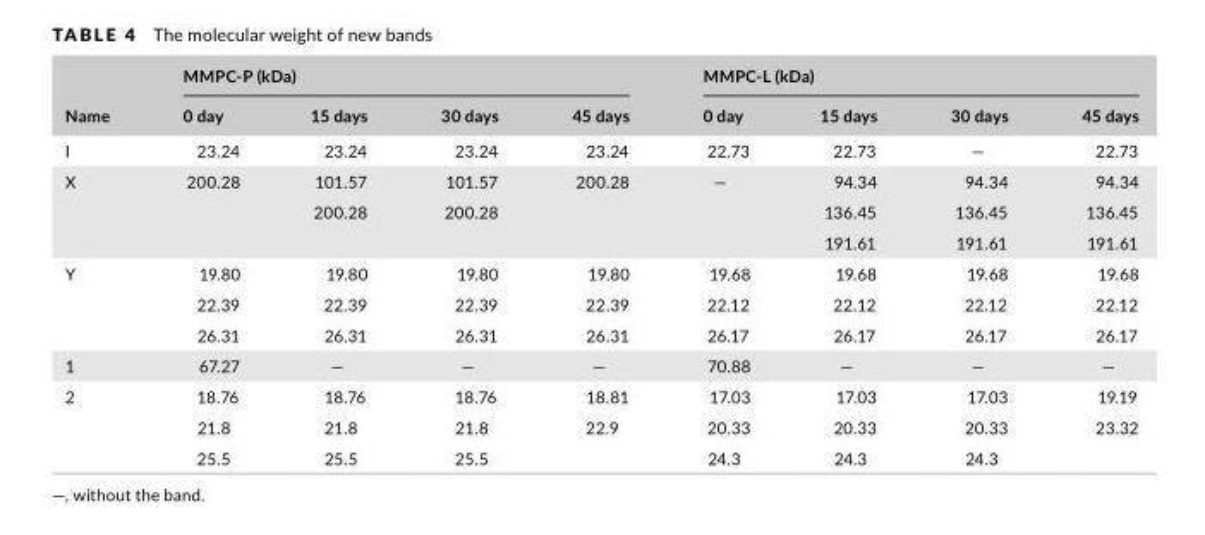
<table><thead><tr><td rowspan="2">Name</td><td colspan="4">MMPC- P (kDa)</td><td colspan="4">MMPC- L (kDa)</td></tr><tr><td>0 day</td><td>15 days</td><td>30 days</td><td>45 days</td><td>0 day</td><td>15 days</td><td>30 days</td><td>45 days</td></tr></thead><tbody><tr><td>I</td><td>23.24</td><td>23.24</td><td>23.24</td><td>23.24</td><td>22.73</td><td>22.73</td><td>—</td><td>22.73</td></tr><tr><td rowspan="3">X</td><td>200.28</td><td>101.57</td><td>101.57</td><td>200.28</td><td>—</td><td>94.34</td><td>94.34</td><td>94.34</td></tr><tr><td></td><td>200.28</td><td>200.28</td><td></td><td></td><td>136.45</td><td>136.45</td><td>136.45</td></tr><tr><td></td><td></td><td></td><td></td><td></td><td>191.61</td><td>191.61</td><td>191.61</td></tr><tr><td rowspan="3">Y</td><td>19.80</td><td>19.80</td><td>19.80</td><td>19.80</td><td>19.68</td><td>19.68</td><td>19.68</td><td>19.68</td></tr><tr><td>22.39</td><td>22.39</td><td>22.39</td><td>22.39</td><td>22.12</td><td>22.12</td><td>22.12</td><td>22.12</td></tr><tr><td>26.31</td><td>26.31</td><td>26.31</td><td>26.31</td><td>26.17</td><td>26.17</td><td>26.17</td><td>26.17</td></tr><tr><td>1</td><td>67.27</td><td>—</td><td>—</td><td>—</td><td>70.88</td><td>—</td><td>—</td><td>—</td></tr><tr><td rowspan="3">2</td><td>18.76</td><td>18.76</td><td>18.76</td><td>18.81</td><td>17.03</td><td>17.03</td><td>17.03</td><td>19.19</td></tr><tr><td>21.8</td><td>21.8</td><td>21.8</td><td>22.9</td><td>20.33</td><td>20.33</td><td>20.33</td><td>23.32</td></tr><tr><td>25.5</td><td>25.5</td><td>25.5</td><td></td><td>24.3</td><td>24.3</td><td>24.3</td><td></td></tr></tbody></table>